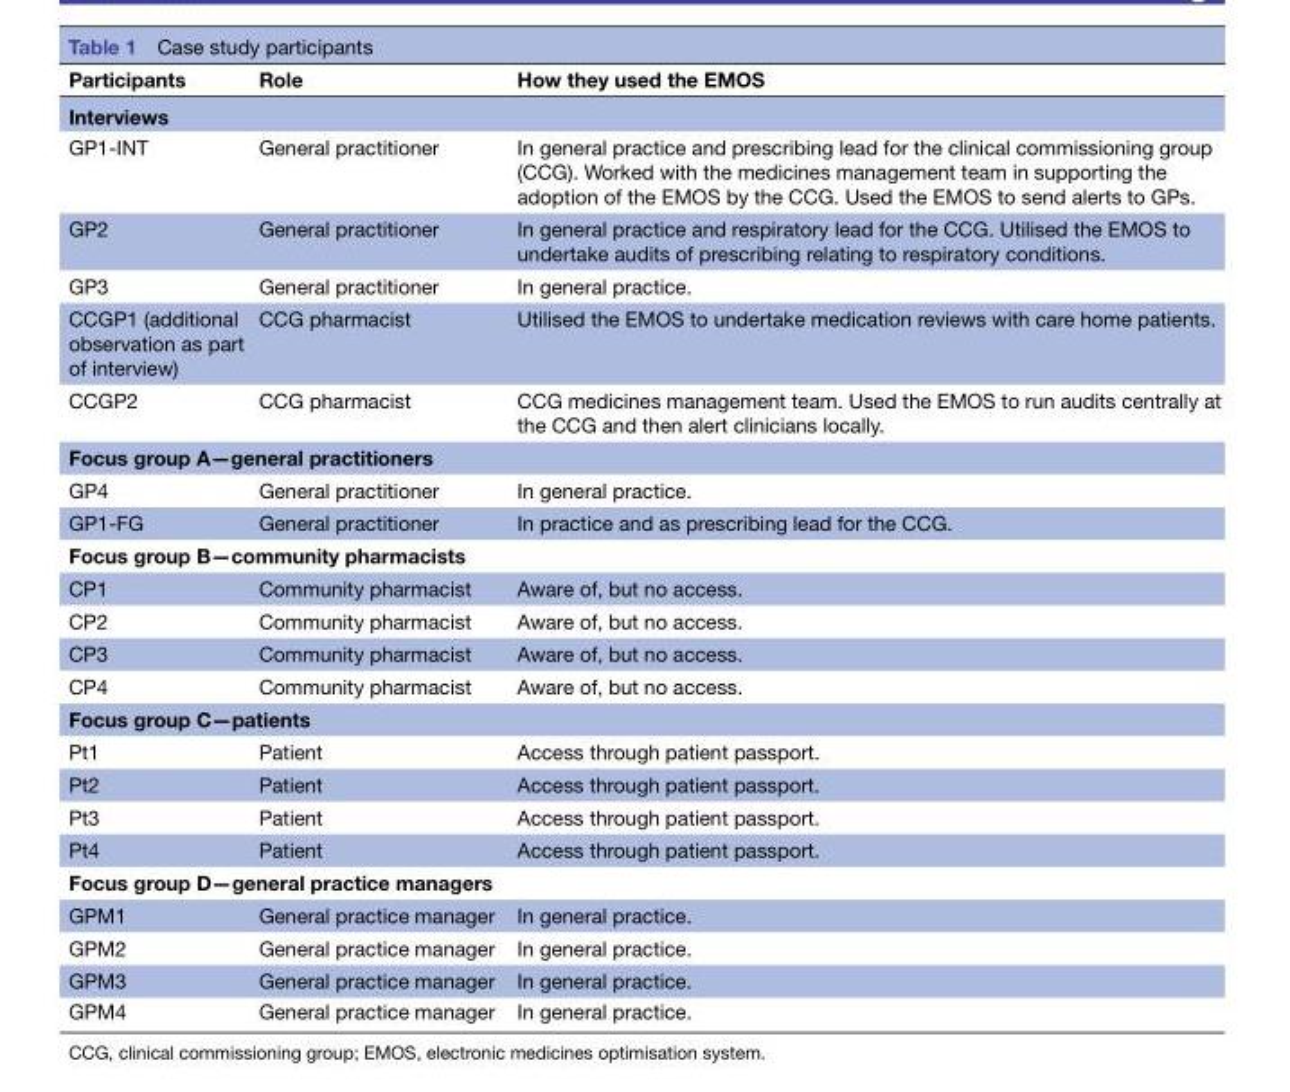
<table><thead><tr><td>Participants</td><td>Role</td><td>How they used the EMOS</td></tr></thead><tbody><tr><td colspan="3">Interviews</td></tr><tr><td>GP1-INT</td><td>General practitioner</td><td>In general practice and prescribing lead for the clinical commissioning group (CCG). Worked with the medicines management team in supporting the adoption of the EMOS by the CCG. Used the EMOS to send alerts to GPs.</td></tr><tr><td>GP2</td><td>General practitioner</td><td>In general practice and respiratory lead for the CCG. Utilised the EMOS to undertake audits of prescribing relating to respiratory conditions.</td></tr><tr><td>GP3</td><td>General practitioner</td><td>In general practice.</td></tr><tr><td>CCGP1 (additional observation as part of interview)</td><td>CCG pharmacist</td><td>Utilised the EMOS to undertake medication reviews with care home patients.</td></tr><tr><td>CCGP2</td><td>CCG pharmacist</td><td>CCG medicines management team. Used the EMOS to run audits centrally at the CCG and then alert clinicians locally.</td></tr><tr><td colspan="3">Focus group A—general practitioners</td></tr><tr><td>GP4</td><td>General practitioner</td><td>In general practice.</td></tr><tr><td>GP1-FG</td><td>General practitioner</td><td>In practice and as prescribing lead for the CCG.</td></tr><tr><td colspan="3">Focus group B—community pharmacists</td></tr><tr><td>CP1</td><td>Community pharmacist</td><td>Aware of, but no access.</td></tr><tr><td>CP2</td><td>Community pharmacist</td><td>Aware of, but no access.</td></tr><tr><td>CP3</td><td>Community pharmacist</td><td>Aware of, but no access.</td></tr><tr><td>CP4</td><td>Community pharmacist</td><td>Aware of, but no access.</td></tr><tr><td colspan="3">Focus group C—patients</td></tr><tr><td>Pt1</td><td>Patient</td><td>Access through patient passport.</td></tr><tr><td>Pt2</td><td>Patient</td><td>Access through patient passport.</td></tr><tr><td>Pt3</td><td>Patient</td><td>Access through patient passport.</td></tr><tr><td>Pt4</td><td>Patient</td><td>Access through patient passport.</td></tr><tr><td colspan="3">Focus group D—general practice managers</td></tr><tr><td>GPM1</td><td>General practice manager</td><td>In general practice.</td></tr><tr><td>GPM2</td><td>General practice manager</td><td>In general practice.</td></tr><tr><td>GPM3</td><td>General practice manager</td><td>In general practice.</td></tr><tr><td>GPM4</td><td>General practice manager</td><td>In general practice.</td></tr></tbody></table>